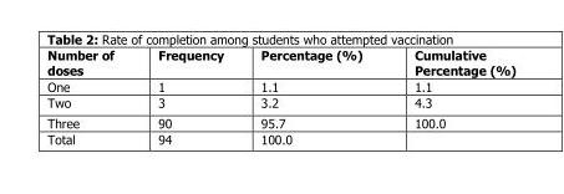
<table><thead><tr><td>Number of doses</td><td>Frequency</td><td>Percentage (%)</td><td>Cumulative Percentage (%)</td></tr></thead><tbody><tr><td>One</td><td>1</td><td>1.1</td><td>1.1</td></tr><tr><td>Two</td><td>3</td><td>3.2</td><td>4.3</td></tr><tr><td>Three</td><td>90</td><td>95.7</td><td>100.0</td></tr><tr><td>Total</td><td>94</td><td>100.0</td><td></td></tr></tbody></table>